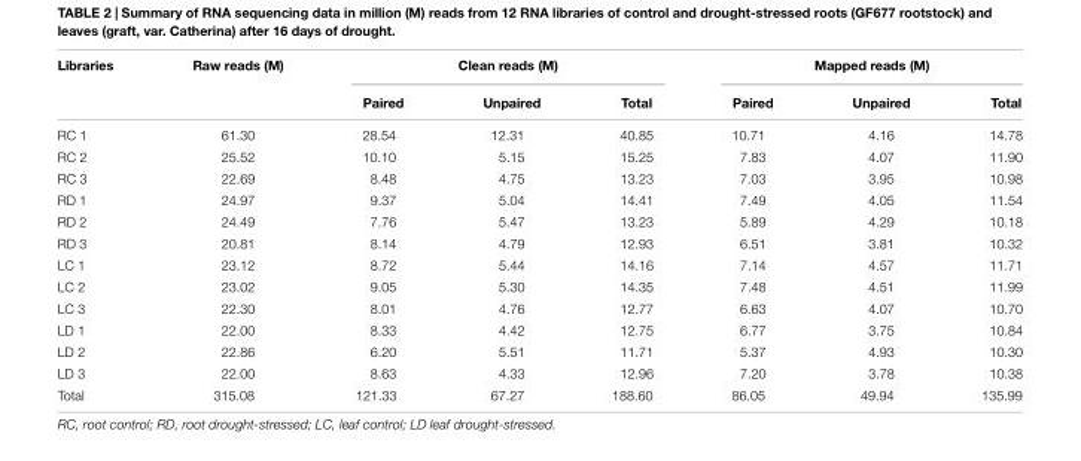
<table><thead><tr><td rowspan="2">Libraries</td><td rowspan="2">Raw reads (M)</td><td colspan="3">Clean reads (M)</td><td colspan="3">Mapped reads (M)</td></tr><tr><td>Paired</td><td>Unpaired</td><td>Total</td><td>Paired</td><td>Unpaired</td><td>Total</td></tr></thead><tbody><tr><td>RC 1</td><td>61.30</td><td>28.54</td><td>12.31</td><td>40.85</td><td>10.71</td><td>4.16</td><td>14.78</td></tr><tr><td>RC 2</td><td>25.52</td><td>10.10</td><td>5.15</td><td>15.25</td><td>7.83</td><td>4.07</td><td>11.90</td></tr><tr><td>RC 3</td><td>22.69</td><td>8.48</td><td>4.75</td><td>13.23</td><td>7.03</td><td>3.95</td><td>10.98</td></tr><tr><td>RD 1</td><td>24.97</td><td>9.37</td><td>5.04</td><td>14.41</td><td>7.49</td><td>4.05</td><td>11.54</td></tr><tr><td>RD 2</td><td>24.49</td><td>7.76</td><td>5.47</td><td>13.23</td><td>5.89</td><td>4.29</td><td>10.18</td></tr><tr><td>RD 3</td><td>20.81</td><td>8.14</td><td>4.79</td><td>12.93</td><td>6.51</td><td>3.81</td><td>10.32</td></tr><tr><td>LC 1</td><td>23.12</td><td>8.72</td><td>5.44</td><td>14.16</td><td>7.14</td><td>4.57</td><td>11.71</td></tr><tr><td>LC 2</td><td>23.02</td><td>9.05</td><td>5.30</td><td>14.35</td><td>7.48</td><td>4.51</td><td>11.99</td></tr><tr><td>LC 3</td><td>22.30</td><td>8.01</td><td>4.76</td><td>12.77</td><td>6.63</td><td>4.07</td><td>10.70</td></tr><tr><td>LD 1</td><td>22.00</td><td>8.33</td><td>4.42</td><td>12.75</td><td>6.77</td><td>3.75</td><td>10.84</td></tr><tr><td>LD 2</td><td>22.86</td><td>6.20</td><td>5.51</td><td>11.71</td><td>5.37</td><td>4.93</td><td>10.30</td></tr><tr><td>LD 3</td><td>22.00</td><td>8.63</td><td>4.33</td><td>12.96</td><td>7.20</td><td>3.78</td><td>10.38</td></tr><tr><td>Total</td><td>315.08</td><td>121.33</td><td>67.27</td><td>188.60</td><td>86.05</td><td>49.94</td><td>135.99</td></tr></tbody></table>